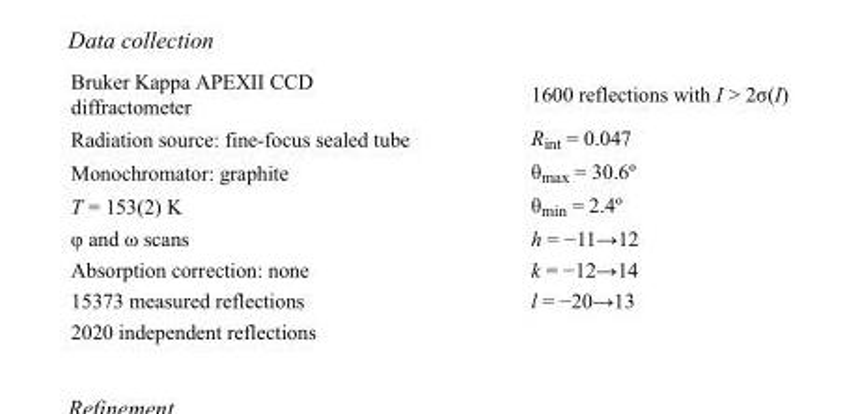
<table><tbody><tr><td>Bruker Kappa APEXII CCD diffractometer</td><td>1600 reflections with I &gt; 2σ(I)</td></tr><tr><td>Radiation source: fine-focus sealed tube</td><td>R<sub>int</sub> = 0.047</td></tr><tr><td>Monochromator: graphite</td><td>θ<sub>max</sub> = 30.6º</td></tr><tr><td>T = 153(2) K</td><td>θ<sub>min</sub> = 2.4º</td></tr><tr><td>φ and ω scans</td><td>h = −11→12</td></tr><tr><td>Absorption correction: none</td><td>k = −12→14</td></tr><tr><td>15373 measured reflections</td><td>l = −20→13</td></tr><tr><td>2020 independent reflections</td><td></td></tr></tbody></table>